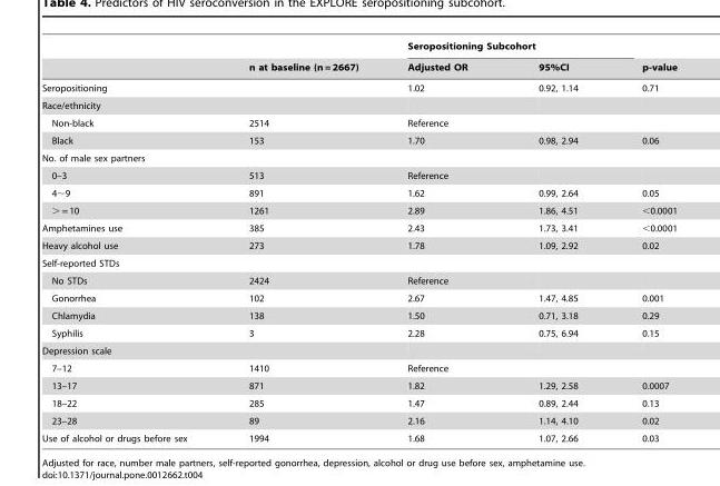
<table><thead><tr><td rowspan="2"></td><td rowspan="2">n at baseline (n = 2667)</td><td colspan="2">Seropositioning Subcohort</td><td rowspan="2">p-value</td></tr><tr><td>Adjusted OR</td><td>95%CI</td></tr></thead><tbody><tr><td>Seropositioning</td><td></td><td>1.02</td><td>0.92, 1.14</td><td>0.71</td></tr><tr><td colspan="5">Race/ethnicity</td></tr><tr><td>Non-black</td><td>2514</td><td>Reference</td><td></td><td></td></tr><tr><td>Black</td><td>153</td><td>1.70</td><td>0.98, 2.94</td><td>0.06</td></tr><tr><td colspan="5">No. of male sex partners</td></tr><tr><td>0–3</td><td>513</td><td>Reference</td><td></td><td></td></tr><tr><td>4∼9</td><td>891</td><td>1.62</td><td>0.99, 2.64</td><td>0.05</td></tr><tr><td>&gt; = 10</td><td>1261</td><td>2.89</td><td>1.86, 4.51</td><td>&lt;0.0001</td></tr><tr><td>Amphetamines use</td><td>385</td><td>2.43</td><td>1.73, 3.41</td><td>&lt;0.0001</td></tr><tr><td>Heavy alcohol use</td><td>273</td><td>1.78</td><td>1.09, 2.92</td><td>0.02</td></tr><tr><td colspan="5">Self-reported STDs</td></tr><tr><td>No STDs</td><td>2424</td><td>Reference</td><td></td><td></td></tr><tr><td>Gonorrhea</td><td>102</td><td>2.67</td><td>1.47, 4.85</td><td>0.001</td></tr><tr><td>Chlamydia</td><td>138</td><td>1.50</td><td>0.71, 3.18</td><td>0.29</td></tr><tr><td>Syphilis</td><td>3</td><td>2.28</td><td>0.75, 6.94</td><td>0.15</td></tr><tr><td colspan="5">Depression scale</td></tr><tr><td>7–12</td><td>1410</td><td>Reference</td><td></td><td></td></tr><tr><td>13–17</td><td>871</td><td>1.82</td><td>1.29, 2.58</td><td>0.0007</td></tr><tr><td>18–22</td><td>285</td><td>1.47</td><td>0.89, 2.44</td><td>0.13</td></tr><tr><td>23–28</td><td>89</td><td>2.16</td><td>1.14, 4.10</td><td>0.02</td></tr><tr><td>Use of alcohol or drugs before sex</td><td>1994</td><td>1.68</td><td>1.07, 2.66</td><td>0.03</td></tr></tbody></table>